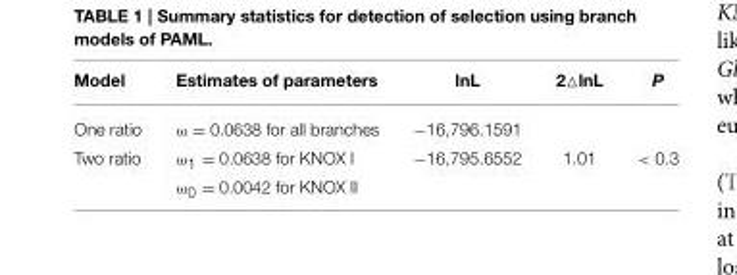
<table><thead><tr><td>Model</td><td>Estimates of parameters</td><td>lnL</td><td>2△lnL</td><td>P</td></tr></thead><tbody><tr><td>One ratio</td><td>ω = 0.0638 for all branches</td><td>−16,796.1591</td><td></td><td></td></tr><tr><td rowspan="2">Two ratio</td><td>ω<sub>1</sub> = 0.0638 for KNOX I</td><td>−16,795.6552</td><td>1.01</td><td>&lt;</td></tr><tr><td>ω<sub>0</sub> = 0.0042 for KNOX II</td><td></td><td></td><td></td></tr></tbody></table>